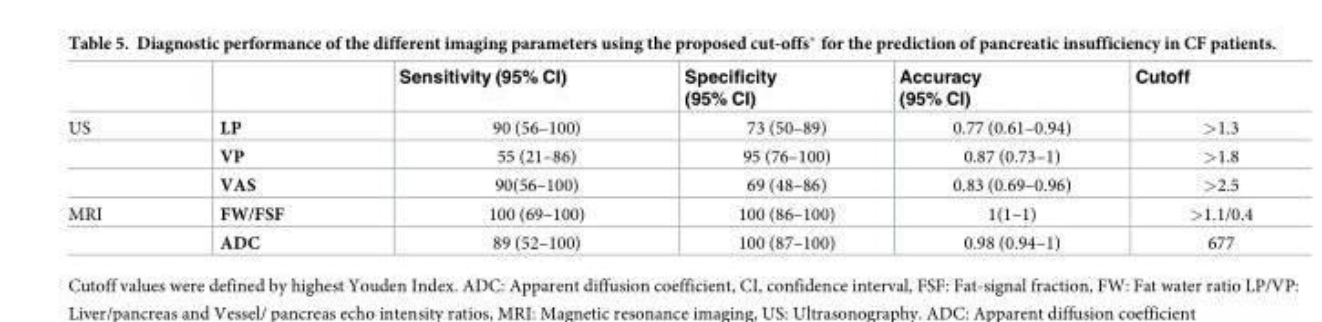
<table><thead><tr><td></td><td></td><td>Sensitivity (95% CI)</td><td>Specificity (95% CI)</td><td>Accuracy (95% CI)</td><td>Cutoff</td></tr></thead><tbody><tr><td rowspan="3">US</td><td>LP</td><td>90 (56–100)</td><td>73 (50–89)</td><td>0.77 (0.61–0.94)</td><td>&gt;1.3</td></tr><tr><td>VP</td><td>55 (21–86)</td><td>95 (76–100)</td><td>0.87 (0.73–1)</td><td>&gt;1.8</td></tr><tr><td>VAS</td><td>90(56–100)</td><td>69 (48–86)</td><td>0.83 (0.69–0.96)</td><td>&gt;2.5</td></tr><tr><td rowspan="2">MRI</td><td>FW/FSF</td><td>100 (69–100)</td><td>100 (86–100)</td><td>1(1–1)</td><td>&gt;1.1/0.4</td></tr><tr><td>ADC</td><td>89 (52–100)</td><td>100 (87–100)</td><td>0.98 (0.94–1)</td><td>677</td></tr></tbody></table>